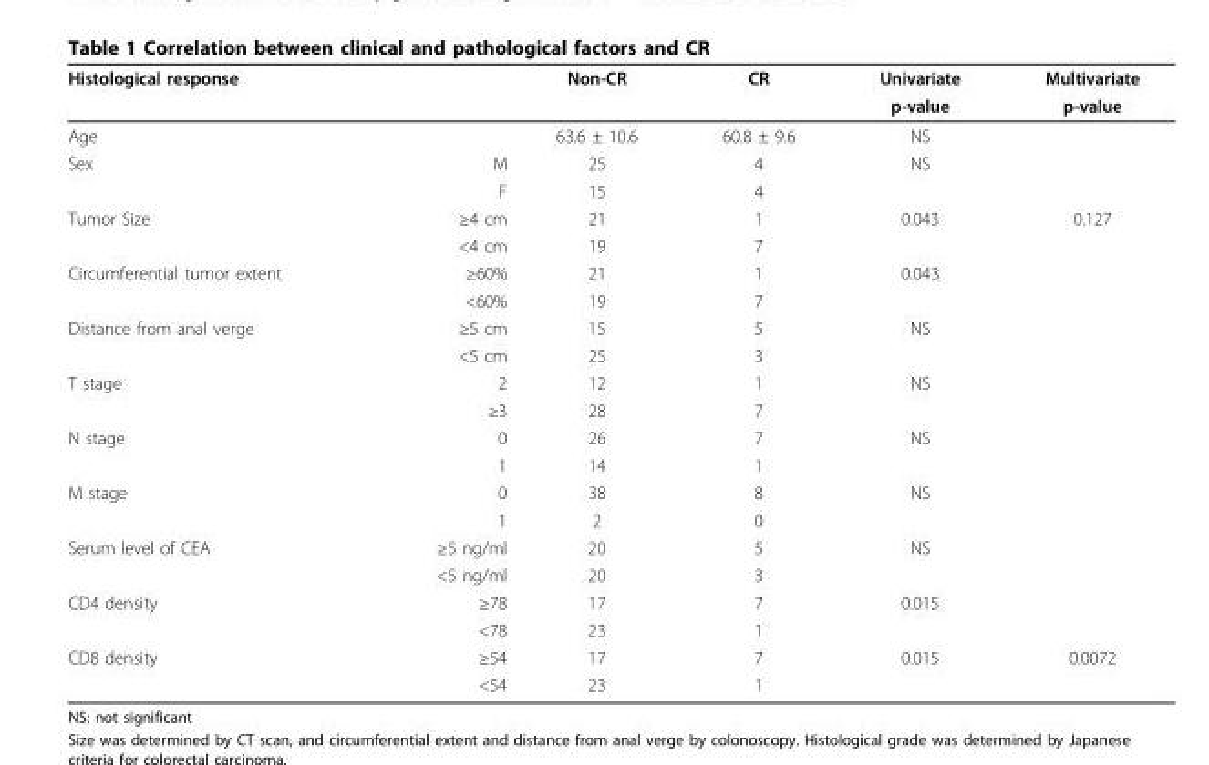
<table><thead><tr><td rowspan="2">Histological response</td><td rowspan="2"></td><td rowspan="2">Non-CR</td><td rowspan="2">CR</td><td rowspan="2">Univariate p-value</td><td rowspan="2">Multivariate p-value</td></tr><tr></tr></thead><tbody><tr><td>Age</td><td></td><td>63.6 ± 10.6</td><td>60.8 ± 9.6</td><td>NS</td><td></td></tr><tr><td rowspan="2">Sex</td><td>M</td><td>25</td><td>4</td><td>NS</td><td></td></tr><tr><td>F</td><td>15</td><td>4</td><td></td><td></td></tr><tr><td rowspan="2">Tumor Size</td><td>≥4 cm</td><td>21</td><td>1</td><td>0.043</td><td>0.127</td></tr><tr><td>&lt;4 cm</td><td>19</td><td>7</td><td></td><td></td></tr><tr><td rowspan="2">Circumferential tumor extent</td><td>≥60%</td><td>21</td><td>1</td><td>0.043</td><td></td></tr><tr><td>&lt;60%</td><td>19</td><td>7</td><td></td><td></td></tr><tr><td rowspan="2">Distance from anal verge</td><td>≥5 cm</td><td>15</td><td>5</td><td>NS</td><td></td></tr><tr><td>&lt;5 cm</td><td>25</td><td>3</td><td></td><td></td></tr><tr><td rowspan="2">T stage</td><td>2</td><td>12</td><td>1</td><td>NS</td><td></td></tr><tr><td>≥3</td><td>28</td><td>7</td><td></td><td></td></tr><tr><td rowspan="2">N stage</td><td>0</td><td>26</td><td>7</td><td>NS</td><td></td></tr><tr><td>1</td><td>14</td><td>1</td><td></td><td></td></tr><tr><td rowspan="2">M stage</td><td>0</td><td>38</td><td>8</td><td>NS</td><td></td></tr><tr><td>1</td><td>2</td><td>0</td><td></td><td></td></tr><tr><td rowspan="2">Serum level of CEA</td><td>≥5 ng/ml</td><td>20</td><td>5</td><td>NS</td><td></td></tr><tr><td>&lt;5 ng/ml</td><td>20</td><td>3</td><td></td><td></td></tr><tr><td rowspan="2">CD4 density</td><td>≥78</td><td>17</td><td>7</td><td>0.015</td><td></td></tr><tr><td>&lt;78</td><td>23</td><td>1</td><td></td><td></td></tr><tr><td rowspan="2">CD8 density</td><td>≥54</td><td>17</td><td>7</td><td>0.015</td><td>0.0072</td></tr><tr><td>&lt;54</td><td>23</td><td>1</td><td></td><td></td></tr></tbody></table>